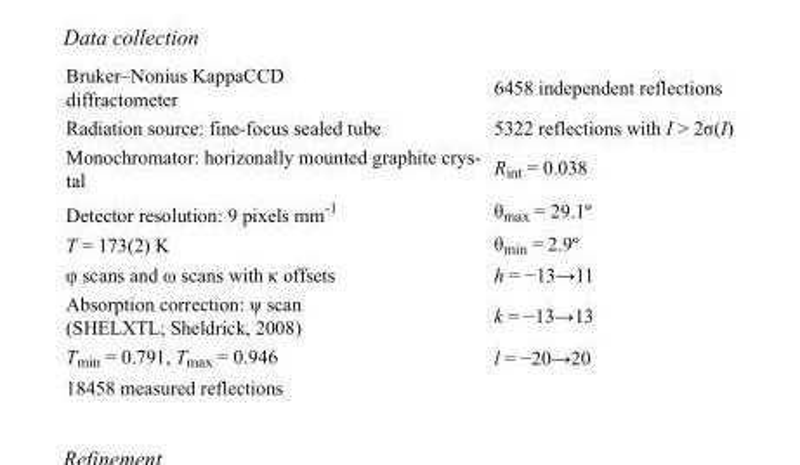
<table><tbody><tr><td>Bruker–Nonius KappaCCD diffractometer</td><td>6458 independent reflections</td></tr><tr><td>Radiation source: fine-focus sealed tube</td><td>5322 reflections with I &gt; 2σ(I)</td></tr><tr><td>Monochromator: horizonally mounted graphite crys- tal</td><td>R<sub>int</sub> = 0.038</td></tr><tr><td>Detector resolution: 9 pixels mm<sup>-1</sup></td><td>θ<sub>max</sub> = 29.1º</td></tr><tr><td>T = 173(2) K</td><td>θ<sub>min</sub> = 2.9º</td></tr><tr><td>φ scans and ω scans with κ offsets</td><td>h = −13→11</td></tr><tr><td>Absorption correction: ψ scan (SHELXTL; Sheldrick, 2008)</td><td>k = −13→13</td></tr><tr><td>T<sub>min</sub> = 0.791, T<sub>max</sub> = 0.946</td><td>l = −20→20</td></tr><tr><td>18458 measured reflections</td><td></td></tr></tbody></table>